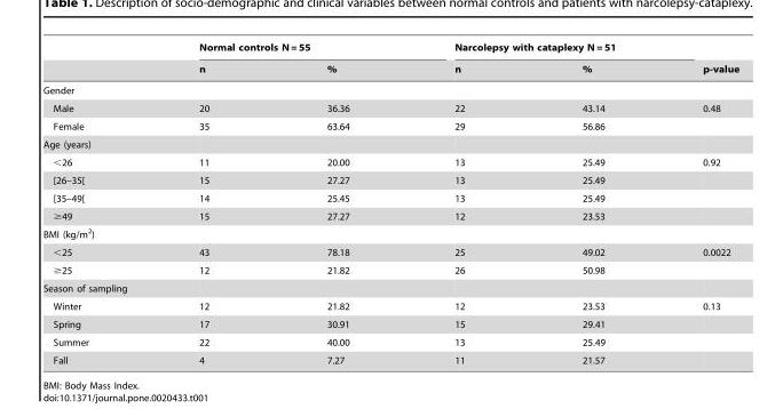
<table><thead><tr><td rowspan="2"></td><td colspan="2">Normal controls N = 55</td><td colspan="2">Narcolepsy with cataplexy N = 51</td><td rowspan="2">p-value</td></tr><tr><td>n</td><td>%</td><td>n</td><td>%</td></tr></thead><tbody><tr><td colspan="6">Gender</td></tr><tr><td>Male</td><td>20</td><td>36.36</td><td>22</td><td>43.14</td><td>0.48</td></tr><tr><td>Female</td><td>35</td><td>63.64</td><td>29</td><td>56.86</td><td></td></tr><tr><td colspan="6">Age (years)</td></tr><tr><td>&lt;26</td><td>11</td><td>20.00</td><td>13</td><td>25.49</td><td>0.92</td></tr><tr><td>[26–35[</td><td>15</td><td>27.27</td><td>13</td><td>25.49</td><td></td></tr><tr><td>[35–49[</td><td>14</td><td>25.45</td><td>13</td><td>25.49</td><td></td></tr><tr><td>≥49</td><td>15</td><td>27.27</td><td>12</td><td>23.53</td><td></td></tr><tr><td colspan="6">BMI (kg/m<sup>2</sup>)</td></tr><tr><td>&lt;25</td><td>43</td><td>78.18</td><td>25</td><td>49.02</td><td>0.0022</td></tr><tr><td>≥25</td><td>12</td><td>21.82</td><td>26</td><td>50.98</td><td></td></tr><tr><td colspan="6">Season of sampling</td></tr><tr><td>Winter</td><td>12</td><td>21.82</td><td>12</td><td>23.53</td><td>0.13</td></tr><tr><td>Spring</td><td>17</td><td>30.91</td><td>15</td><td>29.41</td><td></td></tr><tr><td>Summer</td><td>22</td><td>40.00</td><td>13</td><td>25.49</td><td></td></tr><tr><td>Fall</td><td>4</td><td>7.27</td><td>11</td><td>21.57</td><td></td></tr></tbody></table>